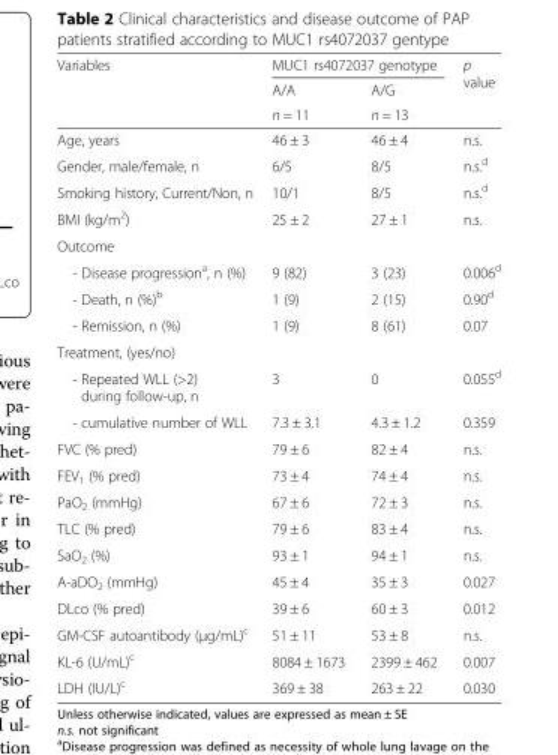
<table><thead><tr><td rowspan="3">Variables</td><td colspan="2">MUC1 rs4072037 genotype</td><td rowspan="3">p value</td></tr><tr><td rowspan="2">A/A n = 11</td><td rowspan="2">A/G n = 13</td></tr><tr></tr></thead><tbody><tr><td>Age, years</td><td>46 ± 3</td><td>46 ± 4</td><td>n.s.</td></tr><tr><td>Gender, male/female, n</td><td>6/5</td><td>8/5</td><td>n.s.<sup>d</sup></td></tr><tr><td>Smoking history, Current/Non, n</td><td>10/1</td><td>8/5</td><td>n.s.<sup>d</sup></td></tr><tr><td>BMI (kg/m<sup>2</sup>)</td><td>25 ± 2</td><td>27 ± 1</td><td>n.s.</td></tr><tr><td colspan="4">Outcome</td></tr><tr><td>- Disease progression<sup>a</sup>, n (%)</td><td>9 (82)</td><td>3 (23)</td><td>0.006<sup>d</sup></td></tr><tr><td>- Death, n (%)<sup>b</sup></td><td>1 (9)</td><td>2 (15)</td><td>0.90<sup>d</sup></td></tr><tr><td>- Remission, n (%)</td><td>1 (9)</td><td>8 (61)</td><td>0.07</td></tr><tr><td colspan="4">Treatment, (yes/no)</td></tr><tr><td>- Repeated WLL (&gt;2) during follow-up, n</td><td>3</td><td>0</td><td>0.055<sup>d</sup></td></tr><tr><td>- cumulative number of WLL</td><td>7.3 ± 3.1</td><td>4.3 ± 1.2</td><td>0.359</td></tr><tr><td>FVC (% pred)</td><td>79 ± 6</td><td>82 ± 4</td><td>n.s.</td></tr><tr><td>FEV<sub>1</sub> (% pred)</td><td>73 ± 4</td><td>74 ± 4</td><td>n.s.</td></tr><tr><td>PaO<sub>2</sub> (mmHg)</td><td>67 ± 6</td><td>72 ± 3</td><td>n.s.</td></tr><tr><td>TLC (% pred)</td><td>79 ± 6</td><td>83 ± 4</td><td>n.s.</td></tr><tr><td>SaO<sub>2</sub> (%)</td><td>93 ± 1</td><td>94 ± 1</td><td>n.s.</td></tr><tr><td>A-aDO<sub>2</sub> (mmHg)</td><td>45 ± 4</td><td>35 ± 3</td><td>0.027</td></tr><tr><td>DLco (% pred)</td><td>39 ± 6</td><td>60 ± 3</td><td>0.012</td></tr><tr><td>GM-CSF autoantibody (μg/mL)<sup>c</sup></td><td>51 ± 11</td><td>53 ± 8</td><td>n.s.</td></tr><tr><td>KL-6 (U/mL)<sup>c</sup></td><td>8084 ± 1673</td><td>2399 ± 462</td><td>0.007</td></tr><tr><td>LDH (IU/L)<sup>c</sup></td><td>369 ± 38</td><td>263 ± 22</td><td>0.030</td></tr></tbody></table>